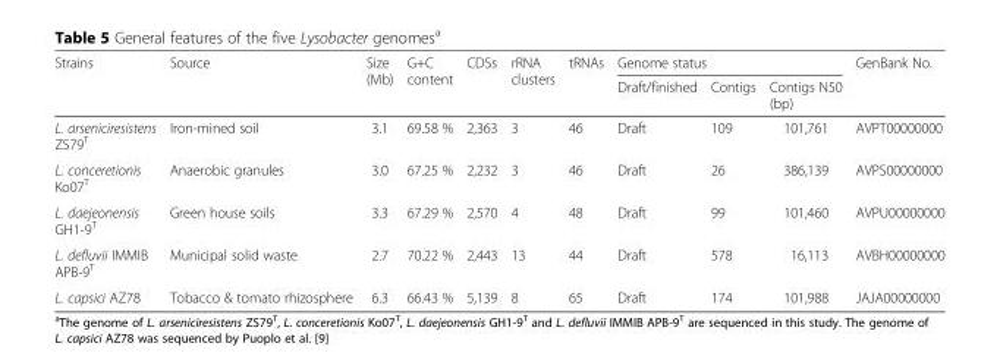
<table><thead><tr><td rowspan="2">Strains</td><td rowspan="2">Source</td><td rowspan="2">Size (Mb)</td><td rowspan="2">G+C content</td><td rowspan="2">CDSs</td><td rowspan="2">rRNA clusters</td><td rowspan="2">tRNAs</td><td colspan="3">Genome status</td><td rowspan="2">GenBank No.</td></tr><tr><td>Draft/finished</td><td>Contigs</td><td>Contigs N50 (bp)</td></tr></thead><tbody><tr><td>L. arseniciresistens ZS79<sup>T</sup></td><td>Iron-mined soil</td><td>3.1</td><td>69.58 %</td><td>2,363</td><td>3</td><td>46</td><td>Draft</td><td>109</td><td>101,761</td><td>AVPT00000000</td></tr><tr><td>L. conceretionis Ko07<sup>T</sup></td><td>Anaerobic granules</td><td>3.0</td><td>67.25 %</td><td>2,232</td><td>3</td><td>46</td><td>Draft</td><td>26</td><td>386,139</td><td>AVPS00000000</td></tr><tr><td>L. daejeonensis GH1-9<sup>T</sup></td><td>Green house soils</td><td>3.3</td><td>67.29 %</td><td>2,570</td><td>4</td><td>48</td><td>Draft</td><td>99</td><td>101,460</td><td>AVPU00000000</td></tr><tr><td>L. defluvii IMMIB APB-9<sup>T</sup></td><td>Municipal solid waste</td><td>2.7</td><td>70.22 %</td><td>2,443</td><td>13</td><td>44</td><td>Draft</td><td>578</td><td>16,113</td><td>AVBH00000000</td></tr><tr><td>L. capsici AZ78</td><td>Tobacco &amp; tomato rhizosphere</td><td>6.3</td><td>66.43 %</td><td>5,139</td><td>8</td><td>65</td><td>Draft</td><td>174</td><td>101,988</td><td>JAJA00000000</td></tr></tbody></table>